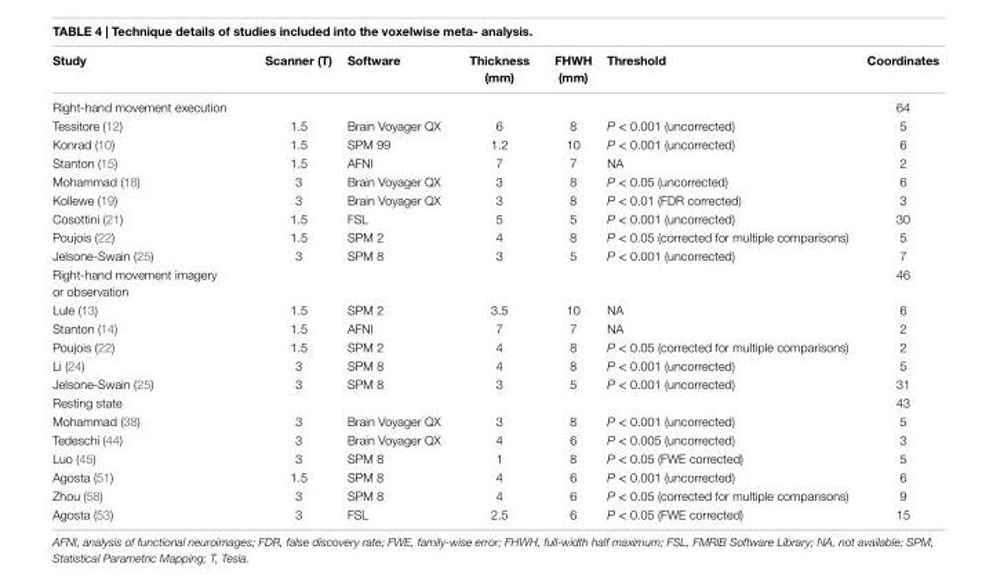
<table><thead><tr><td>study</td><td>scanner (T)</td><td>software</td><td>Thickness (mm)</td><td>FhWh (mm)</td><td>Threshold</td><td>coordinates</td></tr></thead><tbody><tr><td>Right-hand movement execution</td><td></td><td></td><td></td><td></td><td></td><td>64</td></tr><tr><td>Tessitore (12)</td><td>1.5</td><td>Brain Voyager QX</td><td>6</td><td>8</td><td>P &lt; 0.001 (uncorrected)</td><td>5</td></tr><tr><td>Konrad (10)</td><td>1.5</td><td>SPM 99</td><td>1.2</td><td>10</td><td>P &lt; 0.001 (uncorrected)</td><td>6</td></tr><tr><td>Stanton (15)</td><td>1.5</td><td>AFNI</td><td>7</td><td>7</td><td>NA</td><td>2</td></tr><tr><td>Mohammad (18)</td><td>3</td><td>Brain Voyager QX</td><td>3</td><td>8</td><td>P &lt; 0.05 (uncorrected)</td><td>6</td></tr><tr><td>Kollewe (19)</td><td>3</td><td>Brain Voyager QX</td><td>3</td><td>8</td><td>P &lt; 0.01 (FDR corrected)</td><td>3</td></tr><tr><td>Cosottini (21)</td><td>1.5</td><td>FSL</td><td>5</td><td>5</td><td>P &lt; 0.001 (uncorrected)</td><td>30</td></tr><tr><td>Poujois (22)</td><td>1.5</td><td>SPM 2</td><td>4</td><td>8</td><td>P &lt; 0.05 (corrected for multiple comparisons)</td><td>5</td></tr><tr><td>Jelsone-Swain (25)</td><td>3</td><td>SPM 8</td><td>3</td><td>5</td><td>P &lt; 0.001 (uncorrected)</td><td>7</td></tr><tr><td>Right-hand movement imagery or observation</td><td></td><td></td><td></td><td></td><td></td><td>46</td></tr><tr><td>Lule (13)</td><td>1.5</td><td>SPM 2</td><td>3.5</td><td>10</td><td>NA</td><td>6</td></tr><tr><td>Stanton (14)</td><td>1.5</td><td>AFNI</td><td>7</td><td>7</td><td>NA</td><td>2</td></tr><tr><td>Poujois (22)</td><td>1.5</td><td>SPM 2</td><td>4</td><td>8</td><td>P &lt; 0.05 (corrected for multiple comparisons)</td><td>2</td></tr><tr><td>Li (24)</td><td>3</td><td>SPM 8</td><td>4</td><td>8</td><td>P &lt; 0.001 (uncorrected)</td><td>5</td></tr><tr><td>Jelsone-Swain (25)</td><td>3</td><td>SPM 8</td><td>3</td><td>5</td><td>P &lt; 0.001 (uncorrected)</td><td>31</td></tr><tr><td>Resting state</td><td></td><td></td><td></td><td></td><td></td><td>43</td></tr><tr><td>Mohammad (38)</td><td>3</td><td>Brain Voyager QX</td><td>3</td><td>8</td><td>P &lt; 0.001 (uncorrected)</td><td>5</td></tr><tr><td>Tedeschi (44)</td><td>3</td><td>Brain Voyager QX</td><td>4</td><td>6</td><td>P &lt; 0.005 (uncorrected)</td><td>3</td></tr><tr><td>Luo (45)</td><td>3</td><td>SPM 8</td><td>1</td><td>8</td><td>P &lt; 0.05 (FWE corrected)</td><td>5</td></tr><tr><td>Agosta (51)</td><td>1.5</td><td>SPM 8</td><td>4</td><td>6</td><td>P &lt; 0.001 (uncorrected)</td><td>6</td></tr><tr><td>Zhou (58)</td><td>3</td><td>SPM 8</td><td>4</td><td>6</td><td>P &lt; 0.05 (corrected for multiple comparisons)</td><td>9</td></tr><tr><td>Agosta (53)</td><td>3</td><td>FSL</td><td>2.5</td><td>6</td><td>P &lt; 0.05 (FWE corrected)</td><td>15</td></tr></tbody></table>